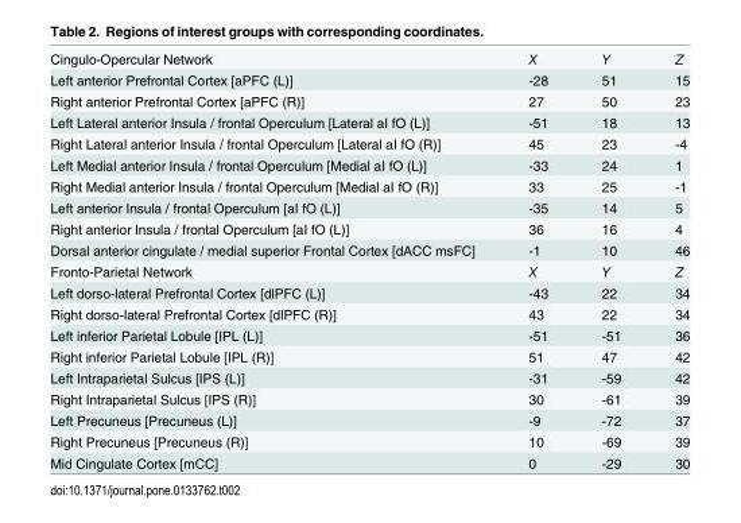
<table><tbody><tr><td>Cingulo-Opercular Network</td><td>X</td><td>Y</td><td>Z</td></tr><tr><td>Left anterior Prefrontal Cortex [aPFC (L)]</td><td>-28</td><td>51</td><td>15</td></tr><tr><td>Right anterior Prefrontal Cortex [aPFC (R)]</td><td>27</td><td>50</td><td>23</td></tr><tr><td>Left Lateral anterior Insula / frontal Operculum [Lateral aI fO (L)]</td><td>-51</td><td>18</td><td>13</td></tr><tr><td>Right Lateral anterior Insula / frontal Operculum [Lateral aI fO (R)]</td><td>45</td><td>23</td><td>-4</td></tr><tr><td>Left Medial anterior Insula / frontal Operculum [Medial aI fO (L)]</td><td>-33</td><td>24</td><td>1</td></tr><tr><td>Right Medial anterior Insula / frontal Operculum [Medial aI fO (R)]</td><td>33</td><td>25</td><td>-1</td></tr><tr><td>Left anterior Insula / frontal Operculum [aI fO (L)]</td><td>-35</td><td>14</td><td>5</td></tr><tr><td>Right anterior Insula / frontal Operculum [aI fO (L)]</td><td>36</td><td>16</td><td>4</td></tr><tr><td>Dorsal anterior cingulate / medial superior Frontal Cortex [dACC msFC]</td><td>-1</td><td>10</td><td>46</td></tr><tr><td>Fronto-Parietal Network</td><td>X</td><td>Y</td><td>Z</td></tr><tr><td>Left dorso-lateral Prefrontal Cortex [dlPFC (L)]</td><td>-43</td><td>22</td><td>34</td></tr><tr><td>Right dorso-lateral Prefrontal Cortex [dlPFC (R)]</td><td>43</td><td>22</td><td>34</td></tr><tr><td>Left inferior Parietal Lobule [IPL (L)]</td><td>-51</td><td>-51</td><td>36</td></tr><tr><td>Right inferior Parietal Lobule [IPL (R)]</td><td>51</td><td>47</td><td>42</td></tr><tr><td>Left Intraparietal Sulcus [IPS (L)]</td><td>-31</td><td>-59</td><td>42</td></tr><tr><td>Right Intraparietal Sulcus [IPS (R)]</td><td>30</td><td>-61</td><td>39</td></tr><tr><td>Left Precuneus [Precuneus (L)]</td><td>-9</td><td>-72</td><td>37</td></tr><tr><td>Right Precuneus [Precuneus (R)]</td><td>10</td><td>-69</td><td>39</td></tr><tr><td>Mid Cingulate Cortex [mCC]</td><td>0</td><td>-29</td><td>30</td></tr></tbody></table>